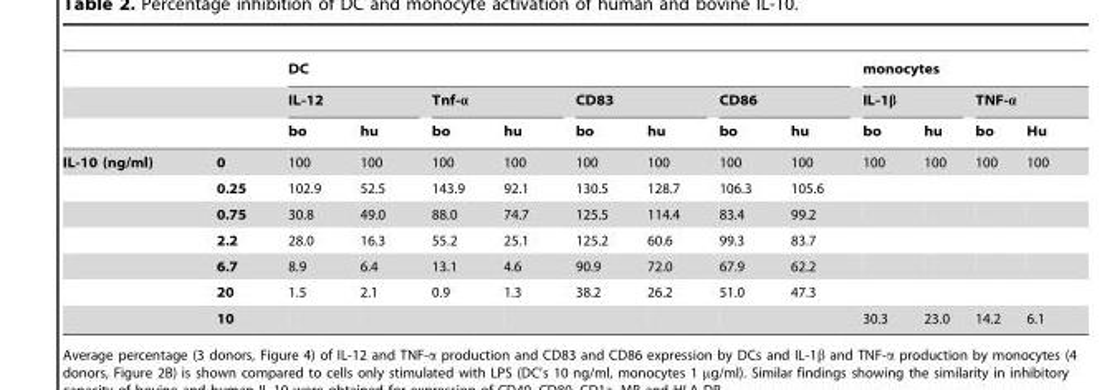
<table><thead><tr><td rowspan="3"></td><td rowspan="3"></td><td colspan="8">DC</td><td colspan="4">monocytes</td></tr><tr><td colspan="2">IL-12</td><td colspan="2">Tnf-α</td><td colspan="2">CD83</td><td colspan="2">CD86</td><td colspan="2">IL-1β</td><td colspan="2">TNF-α</td></tr><tr><td>bo</td><td>hu</td><td>bo</td><td>hu</td><td>bo</td><td>hu</td><td>bo</td><td>hu</td><td>bo</td><td>hu</td><td>bo</td><td>Hu</td></tr></thead><tbody><tr><td rowspan="7">IL-10 (ng/ml)</td><td>0</td><td>100</td><td>100</td><td>100</td><td>100</td><td>100</td><td>100</td><td>100</td><td>100</td><td>100</td><td>100</td><td>100</td><td>100</td></tr><tr><td>0.25</td><td>102.9</td><td>52.5</td><td>143.9</td><td>92.1</td><td>130.5</td><td>128.7</td><td>106.3</td><td>105.6</td><td></td><td></td><td></td><td></td></tr><tr><td>0.75</td><td>30.8</td><td>49.0</td><td>88.0</td><td>74.7</td><td>125.5</td><td>114.4</td><td>83.4</td><td>99.2</td><td></td><td></td><td></td><td></td></tr><tr><td>2.2</td><td>28.0</td><td>16.3</td><td>55.2</td><td>25.1</td><td>125.2</td><td>60.6</td><td>99.3</td><td>83.7</td><td></td><td></td><td></td><td></td></tr><tr><td>6.7</td><td>8.9</td><td>6.4</td><td>13.1</td><td>4.6</td><td>90.9</td><td>72.0</td><td>67.9</td><td>62.2</td><td></td><td></td><td></td><td></td></tr><tr><td>20</td><td>1.5</td><td>2.1</td><td>0.9</td><td>1.3</td><td>38.2</td><td>26.2</td><td>51.0</td><td>47.3</td><td></td><td></td><td></td><td></td></tr><tr><td>10</td><td></td><td></td><td></td><td></td><td></td><td></td><td></td><td></td><td>30.3</td><td>23.0</td><td>14.2</td><td>6.1</td></tr></tbody></table>